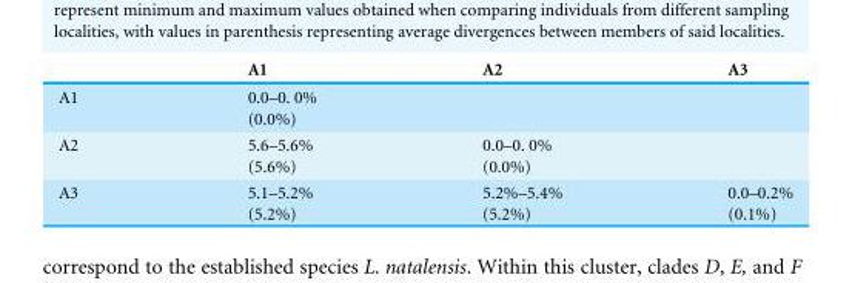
<table><thead><tr><td></td><td>A1</td><td>A2</td><td>A3</td></tr></thead><tbody><tr><td>A1</td><td>0.0–0. 0% (0.0%)</td><td></td><td></td></tr><tr><td>A2</td><td>5.6–5.6% (5.6%)</td><td>0.0–0. 0% (0.0%)</td><td></td></tr><tr><td>A3</td><td>5.1–5.2% (5.2%)</td><td>5.2%–5.4% (5.2%)</td><td>0.0–0.2% (0.1%)</td></tr></tbody></table>